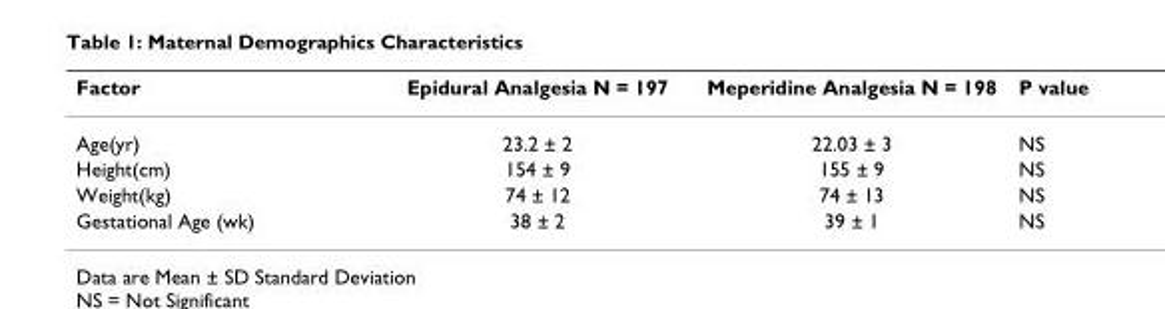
<table><thead><tr><td>Factor</td><td>Epidural Analgesia N = 197</td><td>Meperidine Analgesia N = 198</td><td>P value</td></tr></thead><tbody><tr><td>Age(yr)</td><td>23.2 ± 2</td><td>22.03 ± 3</td><td>NS</td></tr><tr><td>Height(cm)</td><td>154 ± 9</td><td>155 ± 9</td><td>NS</td></tr><tr><td>Weight(kg)</td><td>74 ± 12</td><td>74 ± 13</td><td>NS</td></tr><tr><td>Gestational Age (wk)</td><td>38 ± 2</td><td>39 ± 1</td><td>NS</td></tr></tbody></table>